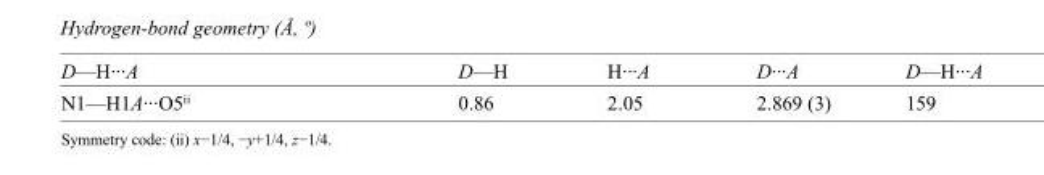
<table><tbody><tr><td>D—H···A</td><td>D—H</td><td>H···A</td><td>D···A</td><td>D—H···A</td></tr><tr><td>N1—H1A···O5<sup>ii</sup></td><td>0.86</td><td>2.05</td><td>2.869 (3)</td><td>159</td></tr></tbody></table>